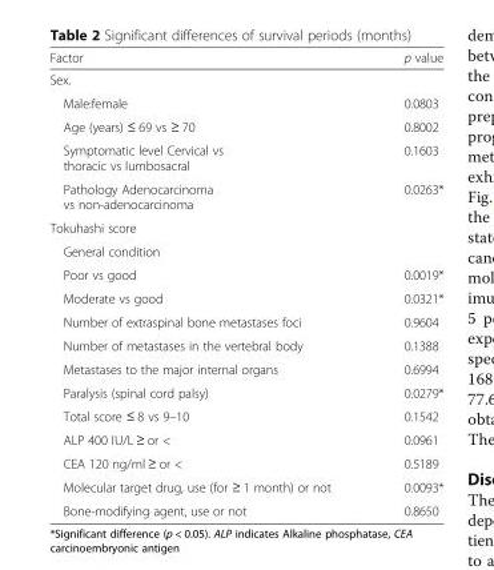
<table><thead><tr><td>Factor</td><td>p value</td></tr></thead><tbody><tr><td colspan="2">Sex.</td></tr><tr><td>Male:female</td><td>0.0803</td></tr><tr><td>Age (years) ≤ 69 vs ≥ 70</td><td>0.8002</td></tr><tr><td>Symptomatic level Cervical vs thoracic vs lumbosacral</td><td>0.1603</td></tr><tr><td>Pathology Adenocarcinoma vs non-adenocarcinoma</td><td>0.0263*</td></tr><tr><td colspan="2">Tokuhashi score</td></tr><tr><td colspan="2">General condition</td></tr><tr><td>Poor vs good</td><td>0.0019*</td></tr><tr><td>Moderate vs good</td><td>0.0321*</td></tr><tr><td>Number of extraspinal bone metastases foci</td><td>0.9604</td></tr><tr><td>Number of metastases in the vertebral body</td><td>0.1388</td></tr><tr><td>Metastases to the major internal organs</td><td>0.6994</td></tr><tr><td>Paralysis (spinal cord palsy)</td><td>0.0279*</td></tr><tr><td>Total score ≤ 8 vs 9–10</td><td>0.1542</td></tr><tr><td>ALP 400 IU/L ≥ or &lt;</td><td>0.0961</td></tr><tr><td>CEA 120 ng/ml ≥ or &lt;</td><td>0.5189</td></tr><tr><td>Molecular target drug, use (for ≥ 1 month) or not</td><td>0.0093*</td></tr><tr><td>Bone-modifying agent, use or not</td><td>0.8650</td></tr></tbody></table>